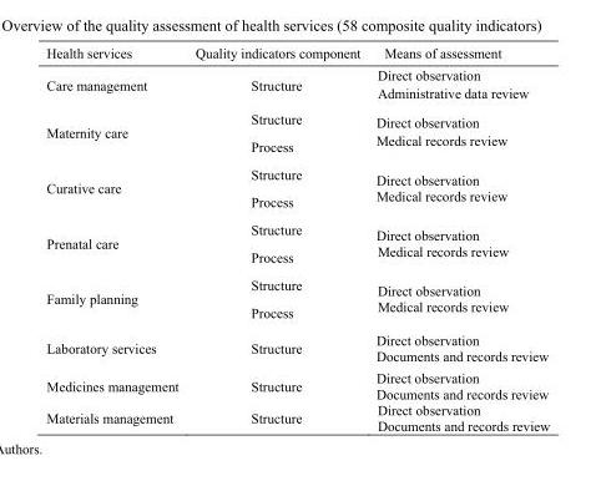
<table><thead><tr><td>Health services</td><td>Quality indicators component</td><td>Means of assessment</td></tr></thead><tbody><tr><td>Care management</td><td>Structure</td><td>Direct observation Administrative data review</td></tr><tr><td>Maternity care</td><td>Structure Process</td><td>Direct observation Medical records review</td></tr><tr><td>Curative care</td><td>Structure Process</td><td>Direct observation Medical records review</td></tr><tr><td>Prenatal care</td><td>Structure Process</td><td>Direct observation Medical records review</td></tr><tr><td>Family planning</td><td>Structure Process</td><td>Direct observation Medical records review</td></tr><tr><td>Laboratory services</td><td>Structure</td><td>Direct observation Documents and records review</td></tr><tr><td>Medicines management</td><td>Structure</td><td>Direct observation Documents and records review</td></tr><tr><td>Materials management</td><td>Structure</td><td>Direct observation Documents and records review</td></tr></tbody></table>